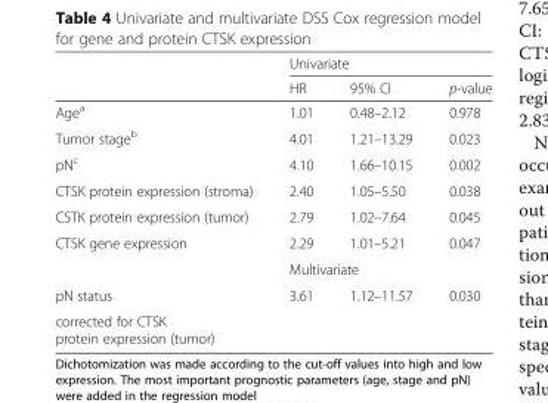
<table><thead><tr><td rowspan="2"></td><td colspan="3">Univariate</td></tr><tr><td>HR</td><td>95% CI</td><td>p-value</td></tr></thead><tbody><tr><td>Age<sup>a</sup></td><td>1.01</td><td>0.48–2.12</td><td>0.978</td></tr><tr><td>Tumor stage<sup>b</sup></td><td>4.01</td><td>1.21–13.29</td><td>0.023</td></tr><tr><td>pN<sup>c</sup></td><td>4.10</td><td>1.66–10.15</td><td>0.002</td></tr><tr><td>CTSK protein expression (stroma)</td><td>2.40</td><td>1.05–5.50</td><td>0.038</td></tr><tr><td>CSTK protein expression (tumor)</td><td>2.79</td><td>1.02–7.64</td><td>0.045</td></tr><tr><td rowspan="2">CTSK gene expression</td><td>2.29</td><td>1.01–5.21</td><td>0.047</td></tr><tr><td colspan="3">Multivariate</td></tr><tr><td>pN status</td><td>3.61</td><td>1.12–11.57</td><td>0.030</td></tr><tr><td colspan="4">corrected for CTSK protein expression (tumor)</td></tr></tbody></table>